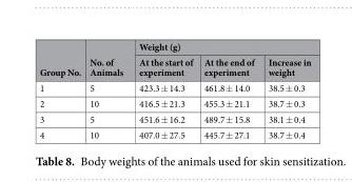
<table><thead><tr><td rowspan="2">Group No.</td><td rowspan="2">No. of Animals</td><td colspan="3">Weight (g)</td></tr><tr><td>At the start of experiment</td><td>At the end of experiment</td><td>Increase in weight</td></tr></thead><tbody><tr><td>1</td><td>5</td><td>423.3 ± 14.3</td><td>461.8 ± 14.0</td><td>38.5 ± 0.3</td></tr><tr><td>2</td><td>10</td><td>416.5 ± 21.3</td><td>455.3 ± 21.1</td><td>38.7 ± 0.3</td></tr><tr><td>3</td><td>5</td><td>451.6 ± 16.2</td><td>489.7 ± 15.8</td><td>38.1 ± 0.4</td></tr><tr><td>4</td><td>10</td><td>407.0 ± 27.5</td><td>445.7 ± 27.1</td><td>38.7 ± 0.4</td></tr></tbody></table>